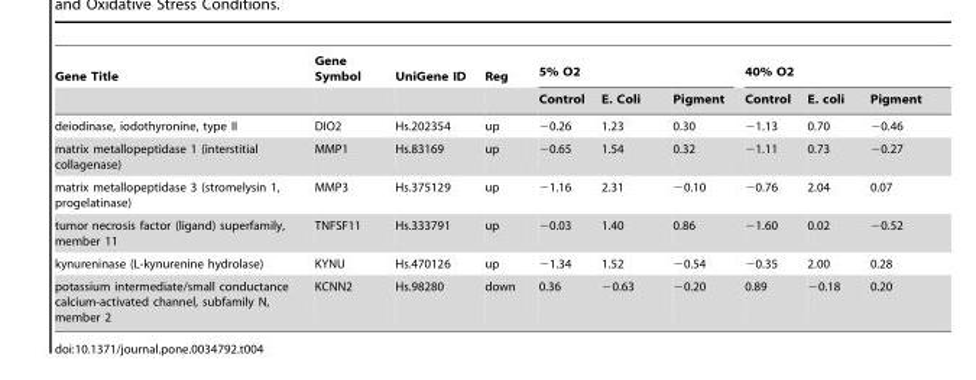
<table><thead><tr><td rowspan="2">Gene Title</td><td rowspan="2">Gene Symbol</td><td rowspan="2">UniGene ID</td><td rowspan="2">Reg</td><td colspan="3">5% O2</td><td colspan="3">40% O2</td></tr><tr><td>Control</td><td>E. Coli</td><td>Pigment</td><td>Control</td><td>E. coli</td><td>Pigment</td></tr></thead><tbody><tr><td>deiodinase, iodothyronine, type II</td><td>DIO2</td><td>Hs.202354</td><td>up</td><td>−0.26</td><td>1.23</td><td>0.30</td><td>−1.13</td><td>0.70</td><td>−0.46</td></tr><tr><td>matrix metallopeptidase 1 (interstitial collagenase)</td><td>MMP1</td><td>Hs.83169</td><td>up</td><td>−0.65</td><td>1.54</td><td>0.32</td><td>−1.11</td><td>0.73</td><td>−0.27</td></tr><tr><td>matrix metallopeptidase 3 (stromelysin 1, progelatinase)</td><td>MMP3</td><td>Hs.375129</td><td>up</td><td>−1.16</td><td>2.31</td><td>−0.10</td><td>−0.76</td><td>2.04</td><td>0.07</td></tr><tr><td>tumor necrosis factor (ligand) superfamily, member 11</td><td>TNFSF11</td><td>Hs.333791</td><td>up</td><td>−0.03</td><td>1.40</td><td>0.86</td><td>−1.60</td><td>0.02</td><td>−0.52</td></tr><tr><td>kynureninase (L-kynurenine hydrolase)</td><td>KYNU</td><td>Hs.470126</td><td>up</td><td>−1.34</td><td>1.52</td><td>−0.54</td><td>−0.35</td><td>2.00</td><td>0.28</td></tr><tr><td>potassium intermediate/small conductance calcium-activated channel, subfamily N, member 2</td><td>KCNN2</td><td>Hs.98280</td><td>down</td><td>0.36</td><td>−0.63</td><td>−0.20</td><td>0.89</td><td>−0.18</td><td>0.20</td></tr></tbody></table>